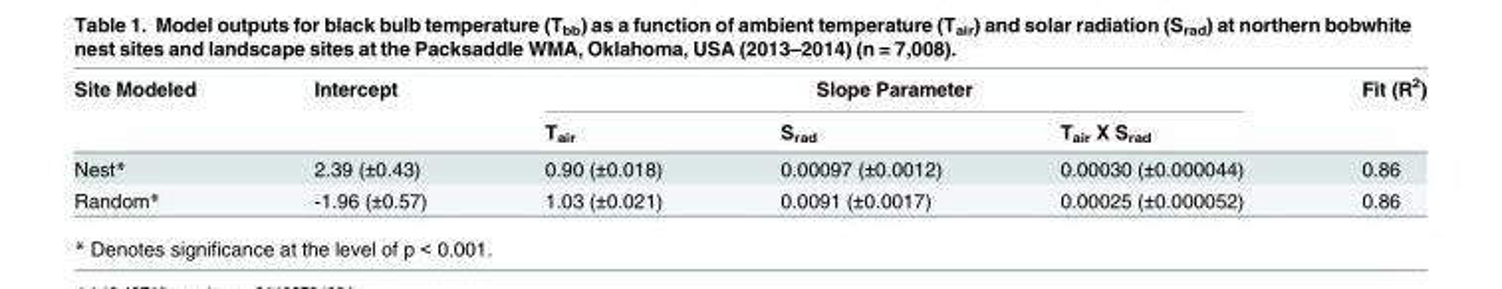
<table><thead><tr><td rowspan="2">Site Modeled</td><td rowspan="2">Intercept</td><td colspan="3">Slope Parameter</td><td rowspan="2">Fit (R<sup>2</sup>)</td></tr><tr><td>T<sub>air</sub></td><td>S<sub>rad</sub></td><td>T<sub>air</sub> X S<sub>rad</sub></td></tr></thead><tbody><tr><td>Nest*</td><td>2.39 (±0.43)</td><td>0.90 (±0.018)</td><td>0.00097 (±0.0012)</td><td>0.00030 (±0.000044)</td><td>0.86</td></tr><tr><td>Random*</td><td>-1.96 (±0.57)</td><td>1.03 (±0.021)</td><td>0.0091 (±0.0017)</td><td>0.00025 (±0.000052)</td><td>0.86</td></tr></tbody></table>